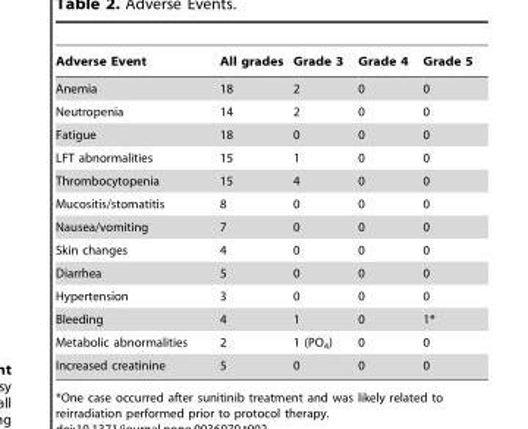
<table><thead><tr><td>Adverse Event</td><td>All grades</td><td>Grade 3</td><td>Grade 4</td><td>Grade 5</td></tr></thead><tbody><tr><td>Anemia</td><td>18</td><td>2</td><td>0</td><td>0</td></tr><tr><td>Neutropenia</td><td>14</td><td>2</td><td>0</td><td>0</td></tr><tr><td>Fatigue</td><td>18</td><td>0</td><td>0</td><td>0</td></tr><tr><td>LFT abnormalities</td><td>15</td><td>1</td><td>0</td><td>0</td></tr><tr><td>Thrombocytopenia</td><td>15</td><td>4</td><td>0</td><td>0</td></tr><tr><td>Mucositis/stomatitis</td><td>8</td><td>0</td><td>0</td><td>0</td></tr><tr><td>Nausea/vomiting</td><td>7</td><td>0</td><td>0</td><td>0</td></tr><tr><td>Skin changes</td><td>4</td><td>0</td><td>0</td><td>0</td></tr><tr><td>Diarrhea</td><td>5</td><td>0</td><td>0</td><td>0</td></tr><tr><td>Hypertension</td><td>3</td><td>0</td><td>0</td><td>0</td></tr><tr><td>Bleeding</td><td>4</td><td>1</td><td>0</td><td>1*</td></tr><tr><td>Metabolic abnormalities</td><td>2</td><td>1 (PO<sub>4</sub>)</td><td>0</td><td>0</td></tr><tr><td>Increased creatinine</td><td>5</td><td>0</td><td>0</td><td>0</td></tr></tbody></table>